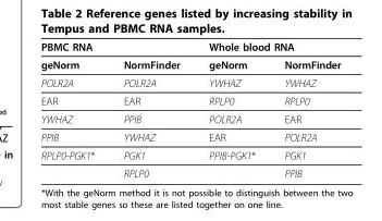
<table><thead><tr><td colspan="2">PBMC RNA</td><td colspan="2">Whole blood RNA</td></tr><tr><td>geNorm</td><td>NormFinder</td><td>geNorm</td><td>NormFinder</td></tr></thead><tbody><tr><td>POLR2A</td><td>POLR2A</td><td>YWHAZ</td><td>YWHAZ</td></tr><tr><td>EAR</td><td>EAR</td><td>RPLP0</td><td>RPLP0</td></tr><tr><td>YWHAZ</td><td>PPIB</td><td>POLR2A</td><td>EAR</td></tr><tr><td>PPIB</td><td>YWHAZ</td><td>EAR</td><td>POLR2A</td></tr><tr><td rowspan="2">RPLP0-PGK1*</td><td>PGK1</td><td>PPIB-PGK1*</td><td>PGK1</td></tr><tr><td>RPLP0</td><td></td><td>PPIB</td></tr></tbody></table>